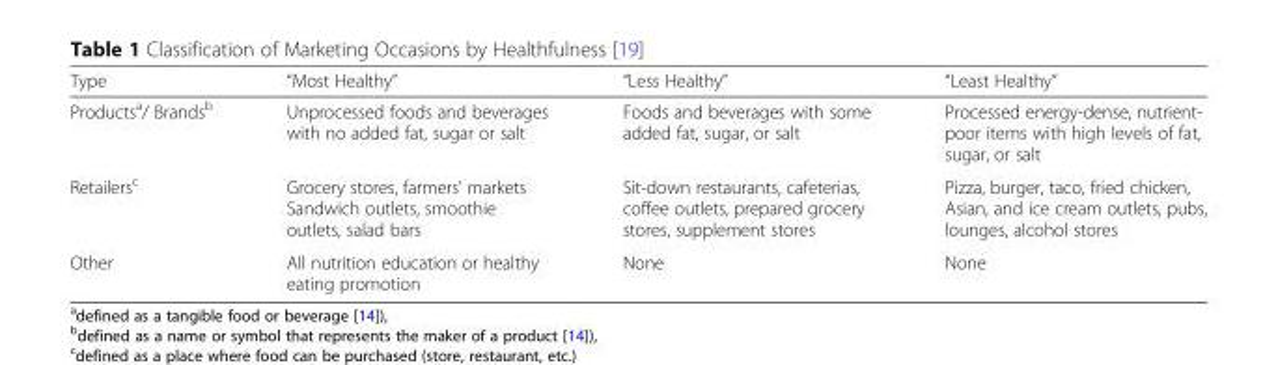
<table><thead><tr><td>Type</td><td>“Most Healthy”</td><td>“Less Healthy”</td><td>“Least Healthy”</td></tr></thead><tbody><tr><td>Products<sup>a</sup>/ Brands<sup>b</sup></td><td>Unprocessed foods and beverages with no added fat, sugar or salt</td><td>Foods and beverages with some added fat, sugar, or salt</td><td>Processed energy-dense, nutrient- poor items with high levels of fat, sugar, or salt</td></tr><tr><td>Retailers<sup>c</sup></td><td>Grocery stores, farmers’ markets Sandwich outlets, smoothie outlets, salad bars</td><td>Sit-down restaurants, cafeterias, coffee outlets, prepared grocery stores, supplement stores</td><td>Pizza, burger, taco, fried chicken, Asian, and ice cream outlets, pubs, lounges, alcohol stores</td></tr><tr><td>Other</td><td>All nutrition education or healthy eating promotion</td><td>None</td><td>None</td></tr></tbody></table>